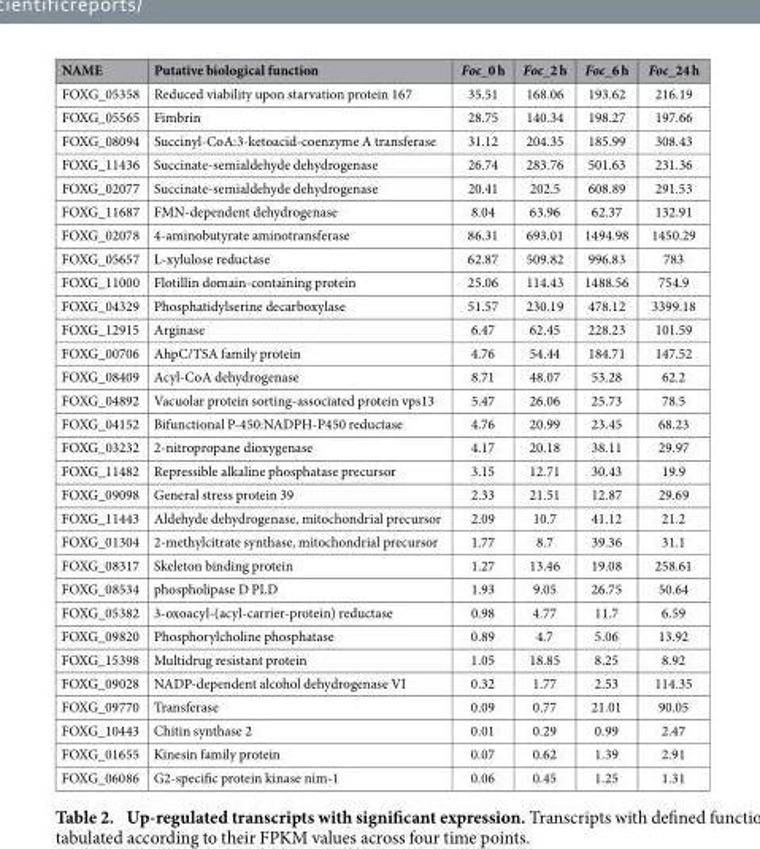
<table><thead><tr><td>NAME</td><td>Putative biological function</td><td>Foc_0 h</td><td>Foc_2 h</td><td>Foc_6 h</td><td>Foc_24 h</td></tr></thead><tbody><tr><td>FOXG_05358</td><td>Reduced viability upon starvation protein 167</td><td>35.51</td><td>168.06</td><td>193.62</td><td>216.19</td></tr><tr><td>FOXG_05565</td><td>Fimbrin</td><td>28.75</td><td>140.34</td><td>198.27</td><td>197.66</td></tr><tr><td>FOXG_08094</td><td>Succinyl-CoA:3-ketoacid-coenzyme A transferase</td><td>31.12</td><td>204.35</td><td>185.99</td><td>308.43</td></tr><tr><td>FOXG_11436</td><td>Succinate-semialdehyde dehydrogenase</td><td>26.74</td><td>283.76</td><td>501.63</td><td>231.36</td></tr><tr><td>FOXG_02077</td><td>Succinate-semialdehyde dehydrogenase</td><td>20.41</td><td>202.5</td><td>608.89</td><td>291.53</td></tr><tr><td>FOXG_11687</td><td>FMN-dependent dehydrogenase</td><td>8.04</td><td>63.96</td><td>62.37</td><td>132.91</td></tr><tr><td>FOXG_02078</td><td>4-aminobutyrate aminotransferase</td><td>86.31</td><td>693.01</td><td>1494.98</td><td>1450.29</td></tr><tr><td>FOXG_05657</td><td>L-xylulose reductase</td><td>62.87</td><td>509.82</td><td>996.83</td><td>783</td></tr><tr><td>FOXG_11000</td><td>Flotillin domain-containing protein</td><td>25.06</td><td>114.43</td><td>1488.56</td><td>754.9</td></tr><tr><td>FOXG_04329</td><td>Phosphatidylserine decarboxylase</td><td>51.57</td><td>230.19</td><td>478.12</td><td>3399.18</td></tr><tr><td>FOXG_12915</td><td>Arginase</td><td>6.47</td><td>62.45</td><td>228.23</td><td>101.59</td></tr><tr><td>FOXG_00706</td><td>AhpC/TSA family protein</td><td>4.76</td><td>54.44</td><td>184.71</td><td>147.52</td></tr><tr><td>FOXG_08409</td><td>Acyl-CoA dehydrogenase</td><td>8.71</td><td>48.07</td><td>53.28</td><td>62.2</td></tr><tr><td>FOXG_04892</td><td>Vacuolar protein sorting-associated protein vps13</td><td>5.47</td><td>26.06</td><td>25.73</td><td>78.5</td></tr><tr><td>FOXG_04152</td><td>Bifunctional P-450:NADPH-P450 reductase</td><td>4.76</td><td>20.99</td><td>23.45</td><td>68.23</td></tr><tr><td>FOXG_03232</td><td>2-nitropropane dioxygenase</td><td>4.17</td><td>20.18</td><td>38.11</td><td>29.97</td></tr><tr><td>FOXG_11482</td><td>Repressible alkaline phosphatase precursor</td><td>3.15</td><td>12.71</td><td>30.43</td><td>19.9</td></tr><tr><td>FOXG_09098</td><td>General stress protein 39</td><td>2.33</td><td>21.51</td><td>12.87</td><td>29.69</td></tr><tr><td>FOXG_11443</td><td>Aldehyde dehydrogenase, mitochondrial precursor</td><td>2.09</td><td>10.7</td><td>41.12</td><td>21.2</td></tr><tr><td>FOXG_01304</td><td>2-methylcitrate synthase, mitochondrial precursor</td><td>1.77</td><td>8.7</td><td>39.36</td><td>31.1</td></tr><tr><td>FOXG_08317</td><td>Skeleton binding protein</td><td>1.27</td><td>13.46</td><td>19.08</td><td>258.61</td></tr><tr><td>FOXG_08534</td><td>phospholipase D PLD</td><td>1.93</td><td>9.05</td><td>26.75</td><td>50.64</td></tr><tr><td>FOXG_05382</td><td>3-oxoacyl-(acyl-carrier-protein) reductase</td><td>0.98</td><td>4.77</td><td>11.7</td><td>6.59</td></tr><tr><td>FOXG_09820</td><td>Phosphorylcholine phosphatase</td><td>0.89</td><td>4.7</td><td>5.06</td><td>13.92</td></tr><tr><td>FOXG_15398</td><td>Multidrug resistant protein</td><td>1.05</td><td>18.85</td><td>8.25</td><td>8.92</td></tr><tr><td>FOXG_09028</td><td>NADP-dependent alcohol dehydrogenase VI</td><td>0.32</td><td>1.77</td><td>2.53</td><td>114.35</td></tr><tr><td>FOXG_09770</td><td>Transferase</td><td>0.09</td><td>0.77</td><td>21.01</td><td>90.05</td></tr><tr><td>FOXG_10443</td><td>Chitin synthase 2</td><td>0.01</td><td>0.29</td><td>0.99</td><td>2.47</td></tr><tr><td>FOXG_01655</td><td>Kinesin family protein</td><td>0.07</td><td>0.62</td><td>1.39</td><td>2.91</td></tr><tr><td>FOXG_06086</td><td>G2-specific protein kinase nim-1</td><td>0.06</td><td>0.45</td><td>1.25</td><td>1.31</td></tr></tbody></table>